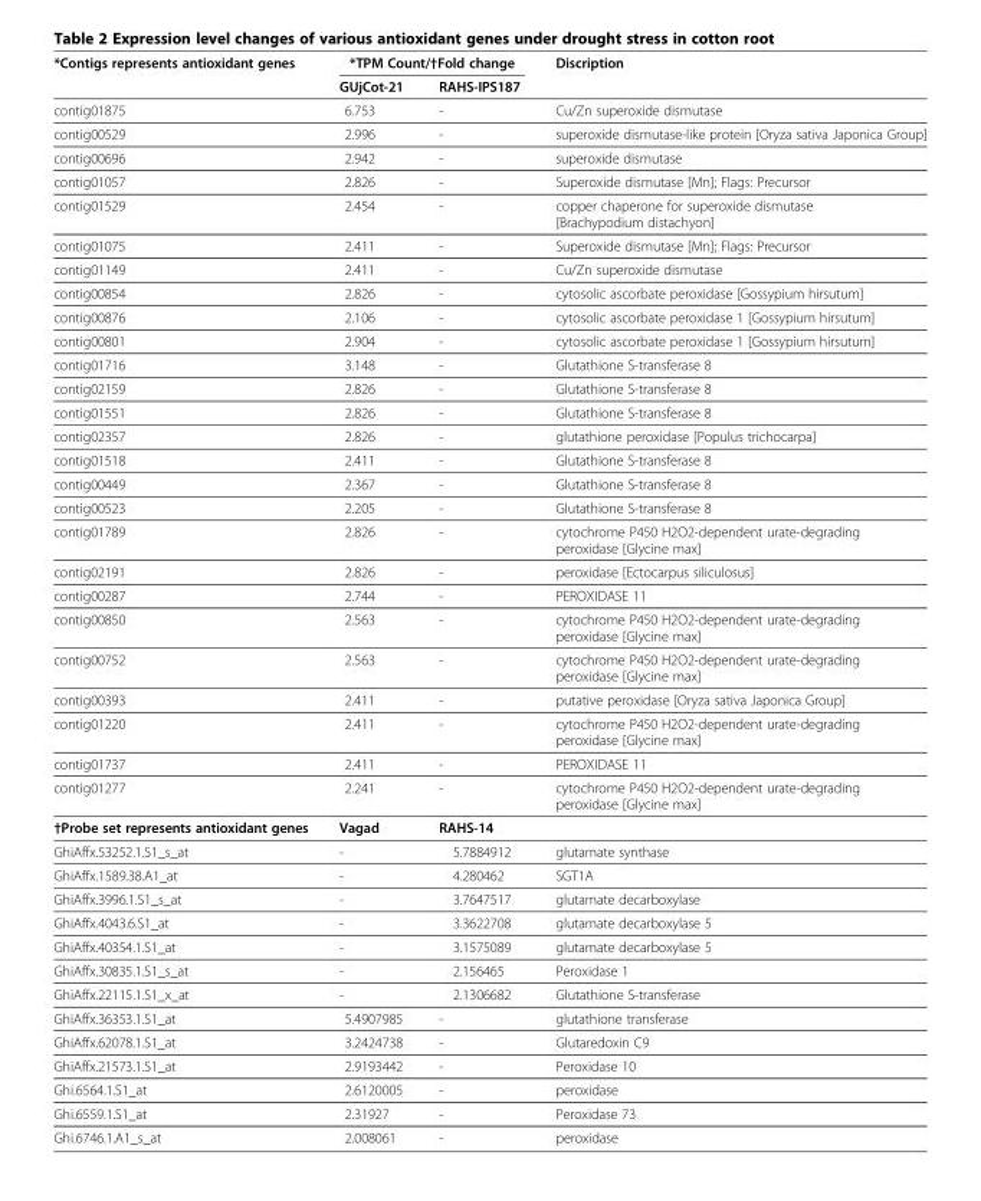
<table><thead><tr><td rowspan="2">*Contigs represents antioxidant genes</td><td colspan="2">*TPM Count/†Fold change</td><td rowspan="2">Discription</td></tr><tr><td>GUjCot-21</td><td>RAHS-IPS187</td></tr></thead><tbody><tr><td>contig01875</td><td>6.753</td><td>-</td><td>Cu/Zn superoxide dismutase</td></tr><tr><td>contig00529</td><td>2.996</td><td>-</td><td>superoxide dismutase-like protein [Oryza sativa Japonica Group]</td></tr><tr><td>contig00696</td><td>2.942</td><td>-</td><td>superoxide dismutase</td></tr><tr><td>contig01057</td><td>2.826</td><td>-</td><td>Superoxide dismutase [Mn]; Flags: Precursor</td></tr><tr><td>contig01529</td><td>2.454</td><td>-</td><td>copper chaperone for superoxide dismutase [Brachypodium distachyon]</td></tr><tr><td>contig01075</td><td>2.411</td><td>-</td><td>Superoxide dismutase [Mn]; Flags: Precursor</td></tr><tr><td>contig01149</td><td>2.411</td><td>-</td><td>Cu/Zn superoxide dismutase</td></tr><tr><td>contig00854</td><td>2.826</td><td>-</td><td>cytosolic ascorbate peroxidase [Gossypium hirsutum]</td></tr><tr><td>contig00876</td><td>2.106</td><td>-</td><td>cytosolic ascorbate peroxidase 1 [Gossypium hirsutum]</td></tr><tr><td>contig00801</td><td>2.904</td><td>-</td><td>cytosolic ascorbate peroxidase 1 [Gossypium hirsutum]</td></tr><tr><td>contig01716</td><td>3.148</td><td>-</td><td>Glutathione S-transferase 8</td></tr><tr><td>contig02159</td><td>2.826</td><td>-</td><td>Glutathione S-transferase 8</td></tr><tr><td>contig01551</td><td>2.826</td><td>-</td><td>Glutathione S-transferase 8</td></tr><tr><td>contig02357</td><td>2.826</td><td>-</td><td>glutathione peroxidase [Populus trichocarpa]</td></tr><tr><td>contig01518</td><td>2.411</td><td>-</td><td>Glutathione S-transferase 8</td></tr><tr><td>contig00449</td><td>2.367</td><td>-</td><td>Glutathione S-transferase 8</td></tr><tr><td>contig00523</td><td>2.205</td><td>-</td><td>Glutathione S-transferase 8</td></tr><tr><td>contig01789</td><td>2.826</td><td>-</td><td>cytochrome P450 H2O2-dependent urate-degrading peroxidase [Glycine max]</td></tr><tr><td>contig02191</td><td>2.826</td><td>-</td><td>peroxidase [Ectocarpus siliculosus]</td></tr><tr><td>contig00287</td><td>2.744</td><td>-</td><td>PEROXIDASE 11</td></tr><tr><td>contig00850</td><td>2.563</td><td>-</td><td>cytochrome P450 H2O2-dependent urate-degrading peroxidase [Glycine max]</td></tr><tr><td>contig00752</td><td>2.563</td><td>-</td><td>cytochrome P450 H2O2-dependent urate-degrading peroxidase [Glycine max]</td></tr><tr><td>contig00393</td><td>2.411</td><td>-</td><td>putative peroxidase [Oryza sativa Japonica Group]</td></tr><tr><td>contig01220</td><td>2.411</td><td>-</td><td>cytochrome P450 H2O2-dependent urate-degrading peroxidase [Glycine max]</td></tr><tr><td>contig01737</td><td>2.411</td><td>-</td><td>PEROXIDASE 11</td></tr><tr><td>contig01277</td><td>2.241</td><td>-</td><td>cytochrome P450 H2O2-dependent urate-degrading peroxidase [Glycine max]</td></tr><tr><td>†Probe set represents antioxidant genes</td><td>Vagad</td><td>RAHS-14</td><td></td></tr><tr><td>GhiAffx.53252.1.S1_s_at</td><td>-</td><td>5.7884912</td><td>glutamate synthase</td></tr><tr><td>GhiAffx.1589.38.A1_at</td><td>-</td><td>4.280462</td><td>SGT1A</td></tr><tr><td>GhiAffx.3996.1.S1_s_at</td><td>-</td><td>3.7647517</td><td>glutamate decarboxylase</td></tr><tr><td>GhiAffx.4043.6.S1_at</td><td>-</td><td>3.3622708</td><td>glutamate decarboxylase 5</td></tr><tr><td>GhiAffx.40354.1.S1_at</td><td>-</td><td>3.1575089</td><td>glutamate decarboxylase 5</td></tr><tr><td>GhiAffx.30835.1.S1_s_at</td><td>-</td><td>2.156465</td><td>Peroxidase 1</td></tr><tr><td>GhiAffx.22115.1.S1_x_at</td><td>-</td><td>2.1306682</td><td>Glutathione S-transferase</td></tr><tr><td>GhiAffx.36353.1.S1_at</td><td>5.4907985</td><td>-</td><td>glutathione transferase</td></tr><tr><td>GhiAffx.62078.1.S1_at</td><td>3.2424738</td><td>-</td><td>Glutaredoxin C9</td></tr><tr><td>GhiAffx.21573.1.S1_at</td><td>2.9193442</td><td>-</td><td>Peroxidase 10</td></tr><tr><td>Ghi.6564.1.S1_at</td><td>2.6120005</td><td>-</td><td>peroxidase</td></tr><tr><td>Ghi.6559.1.S1_at</td><td>2.31927</td><td>-</td><td>Peroxidase 73</td></tr><tr><td>Ghi.6746.1.A1_s_at</td><td>2.008061</td><td>-</td><td>peroxidase</td></tr></tbody></table>